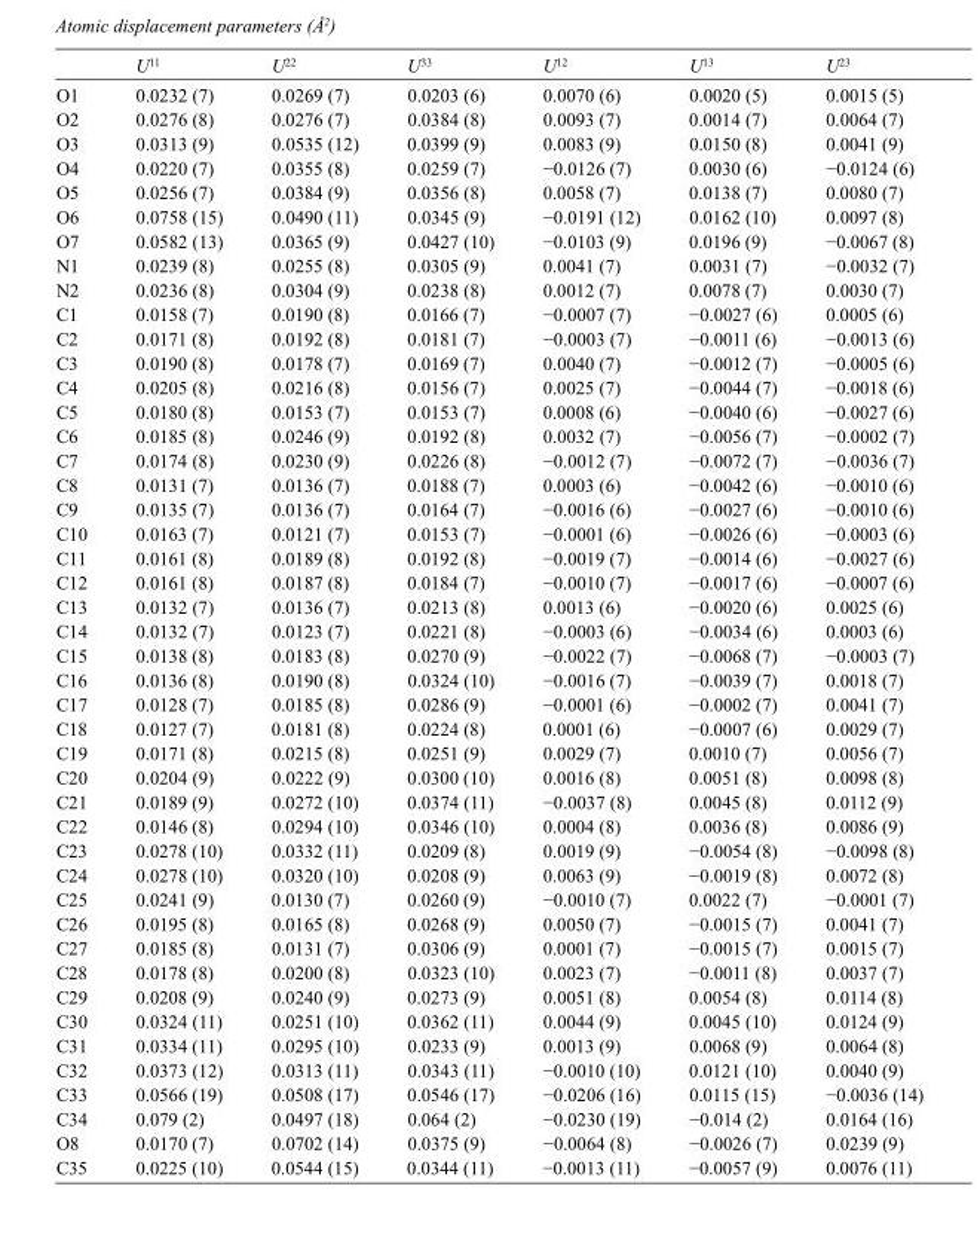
<table><thead><tr><td></td><td>U<sup>11</sup></td><td>U<sup>22</sup></td><td>U<sup>33</sup></td><td>U<sup>12</sup></td><td>U<sup>13</sup></td><td>U<sup>23</sup></td></tr></thead><tbody><tr><td>O1</td><td>0.0232 (7)</td><td>0.0269 (7)</td><td>0.0203 (6)</td><td>0.0070 (6)</td><td>0.0020 (5)</td><td>0.0015 (5)</td></tr><tr><td>O2</td><td>0.0276 (8)</td><td>0.0276 (7)</td><td>0.0384 (8)</td><td>0.0093 (7)</td><td>0.0014 (7)</td><td>0.0064 (7)</td></tr><tr><td>O3</td><td>0.0313 (9)</td><td>0.0535 (12)</td><td>0.0399 (9)</td><td>0.0083 (9)</td><td>0.0150 (8)</td><td>0.0041 (9)</td></tr><tr><td>O4</td><td>0.0220 (7)</td><td>0.0355 (8)</td><td>0.0259 (7)</td><td>−0.0126 (7)</td><td>0.0030 (6)</td><td>−0.0124 (6)</td></tr><tr><td>O5</td><td>0.0256 (7)</td><td>0.0384 (9)</td><td>0.0356 (8)</td><td>0.0058 (7)</td><td>0.0138 (7)</td><td>0.0080 (7)</td></tr><tr><td>O6</td><td>0.0758 (15)</td><td>0.0490 (11)</td><td>0.0345 (9)</td><td>−0.0191 (12)</td><td>0.0162 (10)</td><td>0.0097 (8)</td></tr><tr><td>O7</td><td>0.0582 (13)</td><td>0.0365 (9)</td><td>0.0427 (10)</td><td>−0.0103 (9)</td><td>0.0196 (9)</td><td>−0.0067 (8)</td></tr><tr><td>N1</td><td>0.0239 (8)</td><td>0.0255 (8)</td><td>0.0305 (9)</td><td>0.0041 (7)</td><td>0.0031 (7)</td><td>−0.0032 (7)</td></tr><tr><td>N2</td><td>0.0236 (8)</td><td>0.0304 (9)</td><td>0.0238 (8)</td><td>0.0012 (7)</td><td>0.0078 (7)</td><td>0.0030 (7)</td></tr><tr><td>C1</td><td>0.0158 (7)</td><td>0.0190 (8)</td><td>0.0166 (7)</td><td>−0.0007 (7)</td><td>−0.0027 (6)</td><td>0.0005 (6)</td></tr><tr><td>C2</td><td>0.0171 (8)</td><td>0.0192 (8)</td><td>0.0181 (7)</td><td>−0.0003 (7)</td><td>−0.0011 (6)</td><td>−0.0013 (6)</td></tr><tr><td>C3</td><td>0.0190 (8)</td><td>0.0178 (7)</td><td>0.0169 (7)</td><td>0.0040 (7)</td><td>−0.0012 (7)</td><td>−0.0005 (6)</td></tr><tr><td>C4</td><td>0.0205 (8)</td><td>0.0216 (8)</td><td>0.0156 (7)</td><td>0.0025 (7)</td><td>−0.0044 (7)</td><td>−0.0018 (6)</td></tr><tr><td>C5</td><td>0.0180 (8)</td><td>0.0153 (7)</td><td>0.0153 (7)</td><td>0.0008 (6)</td><td>−0.0040 (6)</td><td>−0.0027 (6)</td></tr><tr><td>C6</td><td>0.0185 (8)</td><td>0.0246 (9)</td><td>0.0192 (8)</td><td>0.0032 (7)</td><td>−0.0056 (7)</td><td>−0.0002 (7)</td></tr><tr><td>C7</td><td>0.0174 (8)</td><td>0.0230 (9)</td><td>0.0226 (8)</td><td>−0.0012 (7)</td><td>−0.0072 (7)</td><td>−0.0036 (7)</td></tr><tr><td>C8</td><td>0.0131 (7)</td><td>0.0136 (7)</td><td>0.0188 (7)</td><td>0.0003 (6)</td><td>−0.0042 (6)</td><td>−0.0010 (6)</td></tr><tr><td>C9</td><td>0.0135 (7)</td><td>0.0136 (7)</td><td>0.0164 (7)</td><td>−0.0016 (6)</td><td>−0.0027 (6)</td><td>−0.0010 (6)</td></tr><tr><td>C10</td><td>0.0163 (7)</td><td>0.0121 (7)</td><td>0.0153 (7)</td><td>−0.0001 (6)</td><td>−0.0026 (6)</td><td>−0.0003 (6)</td></tr><tr><td>C11</td><td>0.0161 (8)</td><td>0.0189 (8)</td><td>0.0192 (8)</td><td>−0.0019 (7)</td><td>−0.0014 (6)</td><td>−0.0027 (6)</td></tr><tr><td>C12</td><td>0.0161 (8)</td><td>0.0187 (8)</td><td>0.0184 (7)</td><td>−0.0010 (7)</td><td>−0.0017 (6)</td><td>−0.0007 (6)</td></tr><tr><td>C13</td><td>0.0132 (7)</td><td>0.0136 (7)</td><td>0.0213 (8)</td><td>0.0013 (6)</td><td>−0.0020 (6)</td><td>0.0025 (6)</td></tr><tr><td>C14</td><td>0.0132 (7)</td><td>0.0123 (7)</td><td>0.0221 (8)</td><td>−0.0003 (6)</td><td>−0.0034 (6)</td><td>0.0003 (6)</td></tr><tr><td>C15</td><td>0.0138 (8)</td><td>0.0183 (8)</td><td>0.0270 (9)</td><td>−0.0022 (7)</td><td>−0.0068 (7)</td><td>−0.0003 (7)</td></tr><tr><td>C16</td><td>0.0136 (8)</td><td>0.0190 (8)</td><td>0.0324 (10)</td><td>−0.0016 (7)</td><td>−0.0039 (7)</td><td>0.0018 (7)</td></tr><tr><td>C17</td><td>0.0128 (7)</td><td>0.0185 (8)</td><td>0.0286 (9)</td><td>−0.0001 (6)</td><td>−0.0002 (7)</td><td>0.0041 (7)</td></tr><tr><td>C18</td><td>0.0127 (7)</td><td>0.0181 (8)</td><td>0.0224 (8)</td><td>0.0001 (6)</td><td>−0.0007 (6)</td><td>0.0029 (7)</td></tr><tr><td>C19</td><td>0.0171 (8)</td><td>0.0215 (8)</td><td>0.0251 (9)</td><td>0.0029 (7)</td><td>0.0010 (7)</td><td>0.0056 (7)</td></tr><tr><td>C20</td><td>0.0204 (9)</td><td>0.0222 (9)</td><td>0.0300 (10)</td><td>0.0016 (8)</td><td>0.0051 (8)</td><td>0.0098 (8)</td></tr><tr><td>C21</td><td>0.0189 (9)</td><td>0.0272 (10)</td><td>0.0374 (11)</td><td>−0.0037 (8)</td><td>0.0045 (8)</td><td>0.0112 (9)</td></tr><tr><td>C22</td><td>0.0146 (8)</td><td>0.0294 (10)</td><td>0.0346 (10)</td><td>0.0004 (8)</td><td>0.0036 (8)</td><td>0.0086 (9)</td></tr><tr><td>C23</td><td>0.0278 (10)</td><td>0.0332 (11)</td><td>0.0209 (8)</td><td>0.0019 (9)</td><td>−0.0054 (8)</td><td>−0.0098 (8)</td></tr><tr><td>C24</td><td>0.0278 (10)</td><td>0.0320 (10)</td><td>0.0208 (9)</td><td>0.0063 (9)</td><td>−0.0019 (8)</td><td>0.0072 (8)</td></tr><tr><td>C25</td><td>0.0241 (9)</td><td>0.0130 (7)</td><td>0.0260 (9)</td><td>−0.0010 (7)</td><td>0.0022 (7)</td><td>−0.0001 (7)</td></tr><tr><td>C26</td><td>0.0195 (8)</td><td>0.0165 (8)</td><td>0.0268 (9)</td><td>0.0050 (7)</td><td>−0.0015 (7)</td><td>0.0041 (7)</td></tr><tr><td>C27</td><td>0.0185 (8)</td><td>0.0131 (7)</td><td>0.0306 (9)</td><td>0.0001 (7)</td><td>−0.0015 (7)</td><td>0.0015 (7)</td></tr><tr><td>C28</td><td>0.0178 (8)</td><td>0.0200 (8)</td><td>0.0323 (10)</td><td>0.0023 (7)</td><td>−0.0011 (8)</td><td>0.0037 (7)</td></tr><tr><td>C29</td><td>0.0208 (9)</td><td>0.0240 (9)</td><td>0.0273 (9)</td><td>0.0051 (8)</td><td>0.0054 (8)</td><td>0.0114 (8)</td></tr><tr><td>C30</td><td>0.0324 (11)</td><td>0.0251 (10)</td><td>0.0362 (11)</td><td>0.0044 (9)</td><td>0.0045 (10)</td><td>0.0124 (9)</td></tr><tr><td>C31</td><td>0.0334 (11)</td><td>0.0295 (10)</td><td>0.0233 (9)</td><td>0.0013 (9)</td><td>0.0068 (9)</td><td>0.0064 (8)</td></tr><tr><td>C32</td><td>0.0373 (12)</td><td>0.0313 (11)</td><td>0.0343 (11)</td><td>−0.0010 (10)</td><td>0.0121 (10)</td><td>0.0040 (9)</td></tr><tr><td>C33</td><td>0.0566 (19)</td><td>0.0508 (17)</td><td>0.0546 (17)</td><td>−0.0206 (16)</td><td>0.0115 (15)</td><td>−0.0036 (14)</td></tr><tr><td>C34</td><td>0.079 (2)</td><td>0.0497 (18)</td><td>0.064 (2)</td><td>−0.0230 (19)</td><td>−0.014 (2)</td><td>0.0164 (16)</td></tr><tr><td>O8</td><td>0.0170 (7)</td><td>0.0702 (14)</td><td>0.0375 (9)</td><td>−0.0064 (8)</td><td>−0.0026 (7)</td><td>0.0239 (9)</td></tr><tr><td>C35</td><td>0.0225 (10)</td><td>0.0544 (15)</td><td>0.0344 (11)</td><td>−0.0013 (11)</td><td>−0.0057 (9)</td><td>0.0076 (11)</td></tr></tbody></table>